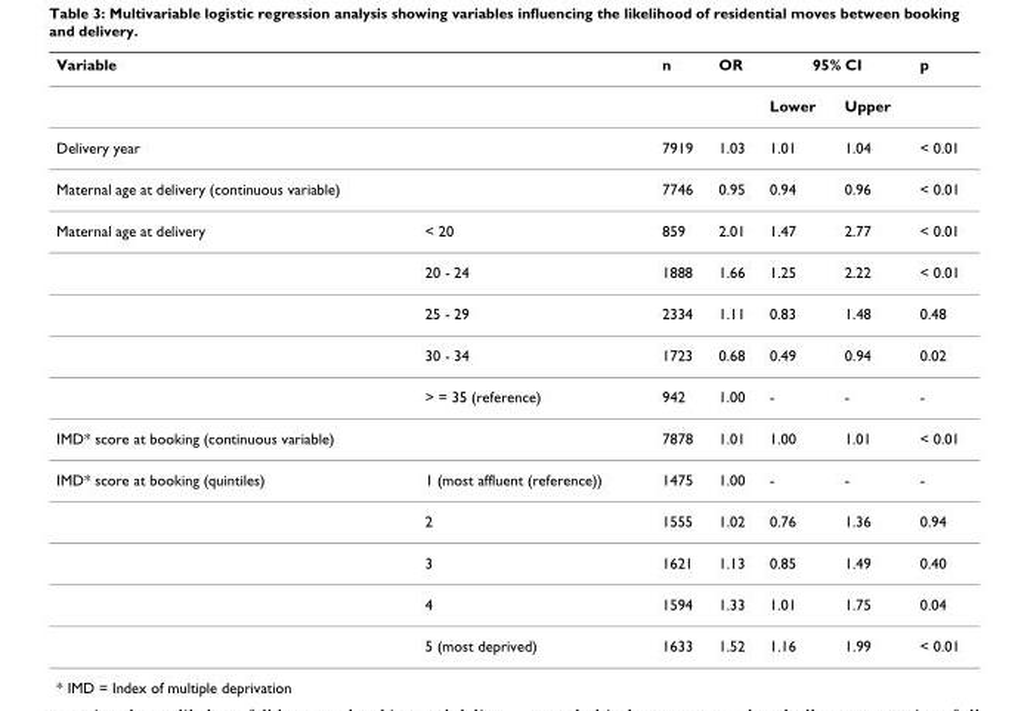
<table><thead><tr><td rowspan="2">Variable</td><td rowspan="2"></td><td rowspan="2">n</td><td rowspan="2">OR</td><td colspan="2">95% CI</td><td rowspan="2">p</td></tr><tr><td>Lower</td><td>Upper</td></tr></thead><tbody><tr><td>Delivery year</td><td></td><td>7919</td><td>1.03</td><td>1.01</td><td>1.04</td><td>&lt; 0.01</td></tr><tr><td>Maternal age at delivery (continuous variable)</td><td></td><td>7746</td><td>0.95</td><td>0.94</td><td>0.96</td><td>&lt; 0.01</td></tr><tr><td rowspan="5">Maternal age at delivery</td><td>&lt; 20</td><td>859</td><td>2.01</td><td>1.47</td><td>2.77</td><td>&lt; 0.01</td></tr><tr><td>20 - 24</td><td>1888</td><td>1.66</td><td>1.25</td><td>2.22</td><td>&lt; 0.01</td></tr><tr><td>25 - 29</td><td>2334</td><td>1.11</td><td>0.83</td><td>1.48</td><td>0.48</td></tr><tr><td>30 - 34</td><td>1723</td><td>0.68</td><td>0.49</td><td>0.94</td><td>0.02</td></tr><tr><td>&gt; = 35 (reference)</td><td>942</td><td>1.00</td><td>-</td><td>-</td><td>-</td></tr><tr><td colspan="2">IMD* score at booking (continuous variable)</td><td>7878</td><td>1.01</td><td>1.00</td><td>1.01</td><td>&lt; 0.01</td></tr><tr><td rowspan="5">IMD* score at booking (quintiles)</td><td>1 (most affluent (reference))</td><td>1475</td><td>1.00</td><td>-</td><td>-</td><td>-</td></tr><tr><td>2</td><td>1555</td><td>1.02</td><td>0.76</td><td>1.36</td><td>0.94</td></tr><tr><td>3</td><td>1621</td><td>1.13</td><td>0.85</td><td>1.49</td><td>0.40</td></tr><tr><td>4</td><td>1594</td><td>1.33</td><td>1.01</td><td>1.75</td><td>0.04</td></tr><tr><td>5 (most deprived)</td><td>1633</td><td>1.52</td><td>1.16</td><td>1.99</td><td>&lt; 0.01</td></tr></tbody></table>